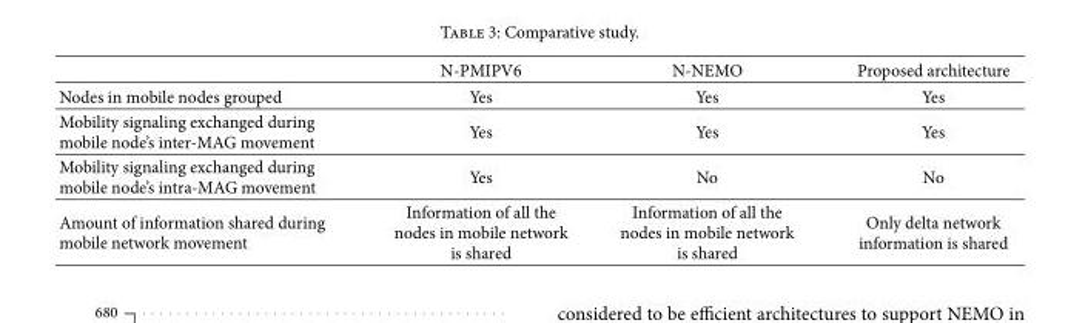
<table><thead><tr><td></td><td>N-PMIPV6</td><td>N-NEMO</td><td>Proposed architecture</td></tr></thead><tbody><tr><td>Nodes in mobile nodes grouped</td><td>Yes</td><td>Yes</td><td>Yes</td></tr><tr><td>Mobility signaling exchanged during mobile node’s inter-MAG movement</td><td>Yes</td><td>Yes</td><td>Yes</td></tr><tr><td>Mobility signaling exchanged during mobile node’s intra-MAG movement</td><td>Yes</td><td>No</td><td>No</td></tr><tr><td>Amount of information shared during mobile network movement</td><td>Information of all the nodes in mobile network is shared</td><td>Information of all the nodes in mobile network is shared</td><td>Only delta network information is shared</td></tr></tbody></table>